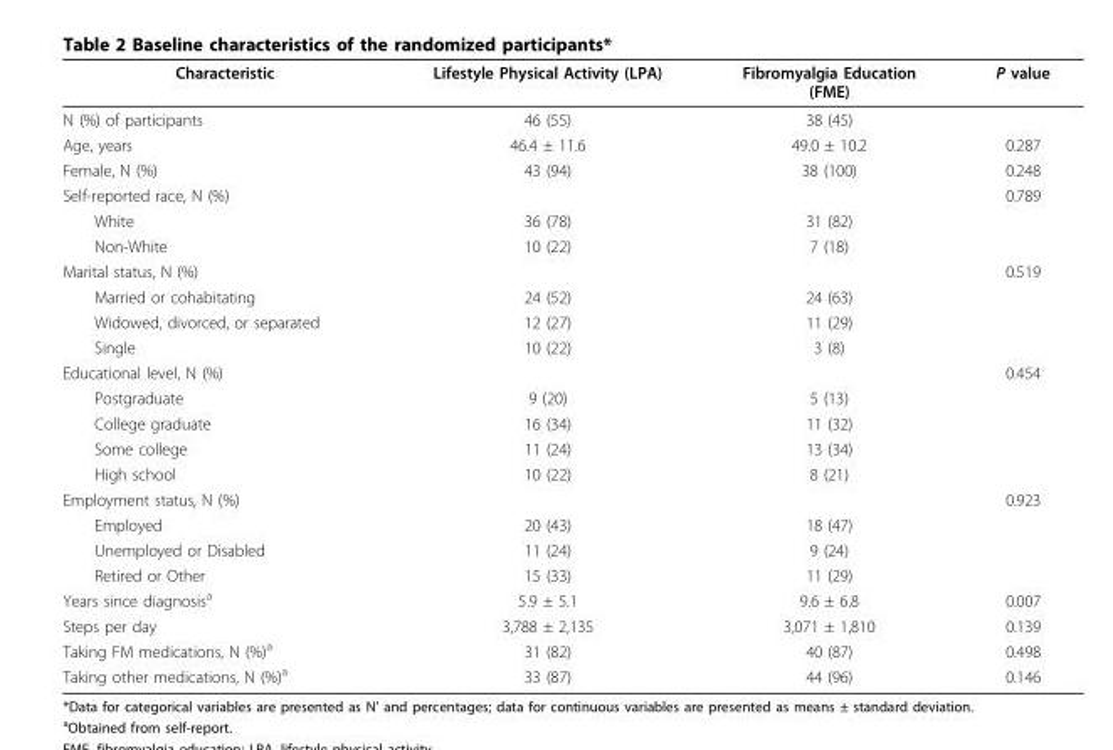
<table><thead><tr><td>Characteristic</td><td>Lifestyle Physical Activity (LPA)</td><td>Fibromyalgia Education (FME)</td><td>P value</td></tr></thead><tbody><tr><td>N (%) of participants</td><td>46 (55)</td><td>38 (45)</td><td></td></tr><tr><td>Age, years</td><td>46.4 ± 11.6</td><td>49.0 ± 10.2</td><td>0.287</td></tr><tr><td>Female, N (%)</td><td>43 (94)</td><td>38 (100)</td><td>0.248</td></tr><tr><td>Self-reported race, N (%)</td><td></td><td></td><td>0.789</td></tr><tr><td>White</td><td>36 (78)</td><td>31 (82)</td><td></td></tr><tr><td>Non-White</td><td>10 (22)</td><td>7 (18)</td><td></td></tr><tr><td>Marital status, N (%)</td><td></td><td></td><td>0.519</td></tr><tr><td>Married or cohabitating</td><td>24 (52)</td><td>24 (63)</td><td></td></tr><tr><td>Widowed, divorced, or separated</td><td>12 (27)</td><td>11 (29)</td><td></td></tr><tr><td>Single</td><td>10 (22)</td><td>3 (8)</td><td></td></tr><tr><td>Educational level, N (%)</td><td></td><td></td><td>0.454</td></tr><tr><td>Postgraduate</td><td>9 (20)</td><td>5 (13)</td><td></td></tr><tr><td>College graduate</td><td>16 (34)</td><td>11 (32)</td><td></td></tr><tr><td>Some college</td><td>11 (24)</td><td>13 (34)</td><td></td></tr><tr><td>High school</td><td>10 (22)</td><td>8 (21)</td><td></td></tr><tr><td>Employment status, N (%)</td><td></td><td></td><td>0.923</td></tr><tr><td>Employed</td><td>20 (43)</td><td>18 (47)</td><td></td></tr><tr><td>Unemployed or Disabled</td><td>11 (24)</td><td>9 (24)</td><td></td></tr><tr><td>Retired or Other</td><td>15 (33)</td><td>11 (29)</td><td></td></tr><tr><td>Years since diagnosis<sup>a</sup></td><td>5.9 ± 5.1</td><td>9.6 ± 6.8</td><td>0.007</td></tr><tr><td>Steps per day</td><td>3,788 ± 2,135</td><td>3,071 ± 1,810</td><td>0.139</td></tr><tr><td>Taking FM medications, N (%)<sup>a</sup></td><td>31 (82)</td><td>40 (87)</td><td>0.498</td></tr><tr><td>Taking other medications, N (%)<sup>a</sup></td><td>33 (87)</td><td>44 (96)</td><td>0.146</td></tr></tbody></table>